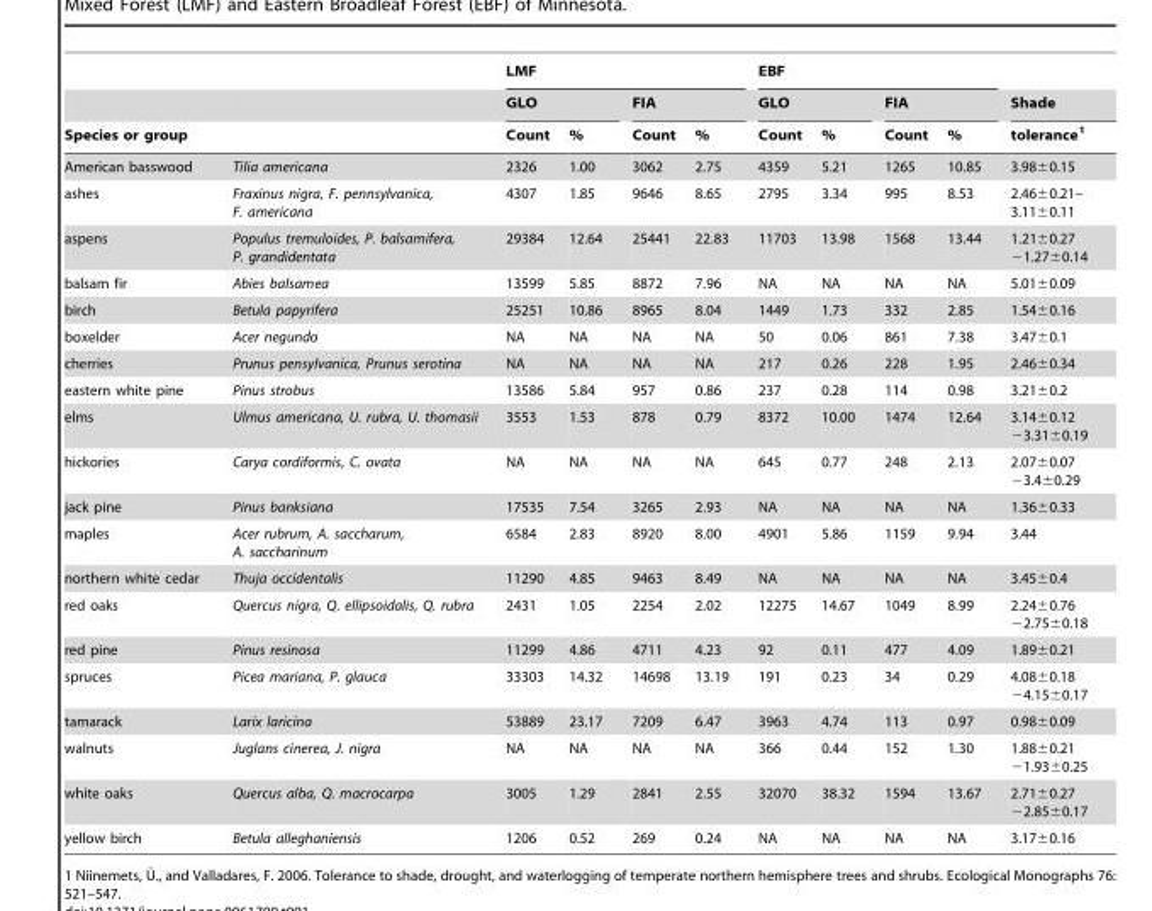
<table><thead><tr><td rowspan="2"></td><td rowspan="2"></td><td colspan="4">LMF</td><td colspan="4">EBF</td><td rowspan="3">Shade tolerance<sup>1</sup></td></tr><tr><td colspan="2">GLO</td><td colspan="2">FIA</td><td colspan="2">GLO</td><td colspan="2">FIA</td></tr><tr><td colspan="2">Species or group</td><td>Count</td><td>%</td><td>Count</td><td>%</td><td>Count</td><td>%</td><td>Count</td><td>%</td></tr></thead><tbody><tr><td>American basswood</td><td>Tilia americana</td><td>2326</td><td>1.00</td><td>3062</td><td>2.75</td><td>4359</td><td>5.21</td><td>1265</td><td>10.85</td><td>3.98±0.15</td></tr><tr><td>ashes</td><td>Fraxinus nigra, F. pennsylvanica, F. americana</td><td>4307</td><td>1.85</td><td>9646</td><td>8.65</td><td>2795</td><td>3.34</td><td>995</td><td>8.53</td><td>2.46±0.21– 3.11±0.11</td></tr><tr><td>aspens</td><td>Populus tremuloides, P. balsamifera, P. grandidentata</td><td>29384</td><td>12.64</td><td>25441</td><td>22.83</td><td>11703</td><td>13.98</td><td>1568</td><td>13.44</td><td>1.21±0.27 −1.27±0.14</td></tr><tr><td>balsam fir</td><td>Abies balsamea</td><td>13599</td><td>5.85</td><td>8872</td><td>7.96</td><td>NA</td><td>NA</td><td>NA</td><td>NA</td><td>5.01±0.09</td></tr><tr><td>birch</td><td>Betula papyrifera</td><td>25251</td><td>10.86</td><td>8965</td><td>8.04</td><td>1449</td><td>1.73</td><td>332</td><td>2.85</td><td>1.54±0.16</td></tr><tr><td>boxelder</td><td>Acer negundo</td><td>NA</td><td>NA</td><td>NA</td><td>NA</td><td>50</td><td>0.06</td><td>861</td><td>7.38</td><td>3.47±0.1</td></tr><tr><td>cherries</td><td>Prunus pensylvanica, Prunus serotina</td><td>NA</td><td>NA</td><td>NA</td><td>NA</td><td>217</td><td>0.26</td><td>228</td><td>1.95</td><td>2.46±0.34</td></tr><tr><td>eastern white pine</td><td>Pinus strobus</td><td>13586</td><td>5.84</td><td>957</td><td>0.86</td><td>237</td><td>0.28</td><td>114</td><td>0.98</td><td>3.21±0.2</td></tr><tr><td>elms</td><td>Ulmus americana, U. rubra, U. thomasii</td><td>3553</td><td>1.53</td><td>878</td><td>0.79</td><td>8372</td><td>10.00</td><td>1474</td><td>12.64</td><td>3.14±0.12 −3.31±0.19</td></tr><tr><td>hickories</td><td>Carya cordiformis, C. ovata</td><td>NA</td><td>NA</td><td>NA</td><td>NA</td><td>645</td><td>0.77</td><td>248</td><td>2.13</td><td>2.07±0.07 −3.4±0.29</td></tr><tr><td>jack pine</td><td>Pinus banksiana</td><td>17535</td><td>7.54</td><td>3265</td><td>2.93</td><td>NA</td><td>NA</td><td>NA</td><td>NA</td><td>1.36±0.33</td></tr><tr><td>maples</td><td>Acer rubrum, A. saccharum, A. saccharinum</td><td>6584</td><td>2.83</td><td>8920</td><td>8.00</td><td>4901</td><td>5.86</td><td>1159</td><td>9.94</td><td>3.44</td></tr><tr><td>northern white cedar</td><td>Thuja occidentalis</td><td>11290</td><td>4.85</td><td>9463</td><td>8.49</td><td>NA</td><td>NA</td><td>NA</td><td>NA</td><td>3.45±0.4</td></tr><tr><td>red oaks</td><td>Quercus nigra, Q. ellipsoidalis, Q. rubra</td><td>2431</td><td>1.05</td><td>2254</td><td>2.02</td><td>12275</td><td>14.67</td><td>1049</td><td>8.99</td><td>2.24±0.76 −2.75±0.18</td></tr><tr><td>red pine</td><td>Pinus resinosa</td><td>11299</td><td>4.86</td><td>4711</td><td>4.23</td><td>92</td><td>0.11</td><td>477</td><td>4.09</td><td>1.89±0.21</td></tr><tr><td>spruces</td><td>Picea mariana, P. glauca</td><td>33303</td><td>14.32</td><td>14698</td><td>13.19</td><td>191</td><td>0.23</td><td>34</td><td>0.29</td><td>4.08±0.18 −4.15±0.17</td></tr><tr><td>tamarack</td><td>Larix laricina</td><td>53889</td><td>23.17</td><td>7209</td><td>6.47</td><td>3963</td><td>4.74</td><td>113</td><td>0.97</td><td>0.98±0.09</td></tr><tr><td>walnuts</td><td>Juglans cinerea, J. nigra</td><td>NA</td><td>NA</td><td>NA</td><td>NA</td><td>366</td><td>0.44</td><td>152</td><td>1.30</td><td>1.88±0.21 −1.93±0.25</td></tr><tr><td>white oaks</td><td>Quercus alba, Q. macrocarpa</td><td>3005</td><td>1.29</td><td>2841</td><td>2.55</td><td>32070</td><td>38.32</td><td>1594</td><td>13.67</td><td>2.71±0.27 −2.85±0.17</td></tr><tr><td>yellow birch</td><td>Betula alleghaniensis</td><td>1206</td><td>0.52</td><td>269</td><td>0.24</td><td>NA</td><td>NA</td><td>NA</td><td>NA</td><td>3.17±0.16</td></tr></tbody></table>